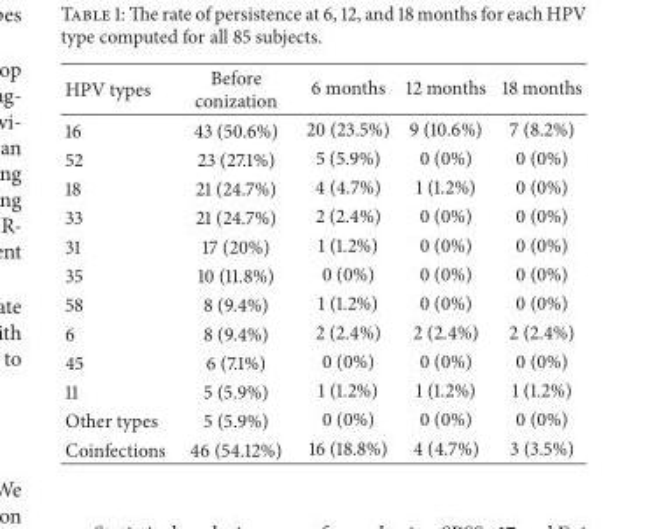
<table><thead><tr><td>HPV types</td><td>Before conization</td><td>6 months</td><td>12 months</td><td>18 months</td></tr></thead><tbody><tr><td>16</td><td>43 (50.6%)</td><td>20 (23.5%)</td><td>9 (10.6%)</td><td>7 (8.2%)</td></tr><tr><td>52</td><td>23 (27.1%)</td><td>5 (5.9%)</td><td>0 (0%)</td><td>0 (0%)</td></tr><tr><td>18</td><td>21 (24.7%)</td><td>4 (4.7%)</td><td>1 (1.2%)</td><td>0 (0%)</td></tr><tr><td>33</td><td>21 (24.7%)</td><td>2 (2.4%)</td><td>0 (0%)</td><td>0 (0%)</td></tr><tr><td>31</td><td>17 (20%)</td><td>1 (1.2%)</td><td>0 (0%)</td><td>0 (0%)</td></tr><tr><td>35</td><td>10 (11.8%)</td><td>0 (0%)</td><td>0 (0%)</td><td>0 (0%)</td></tr><tr><td>58</td><td>8 (9.4%)</td><td>1 (1.2%)</td><td>0 (0%)</td><td>0 (0%)</td></tr><tr><td>6</td><td>8 (9.4%)</td><td>2 (2.4%)</td><td>2 (2.4%)</td><td>2 (2.4%)</td></tr><tr><td>45</td><td>6 (7.1%)</td><td>0 (0%)</td><td>0 (0%)</td><td>0 (0%)</td></tr><tr><td>11</td><td>5 (5.9%)</td><td>1 (1.2%)</td><td>1 (1.2%)</td><td>1 (1.2%)</td></tr><tr><td>Other types</td><td>5 (5.9%)</td><td>0 (0%)</td><td>0 (0%)</td><td>0 (0%)</td></tr><tr><td>Coinfections</td><td>46 (54.12%)</td><td>16 (18.8%)</td><td>4 (4.7%)</td><td>3 (3.5%)</td></tr></tbody></table>